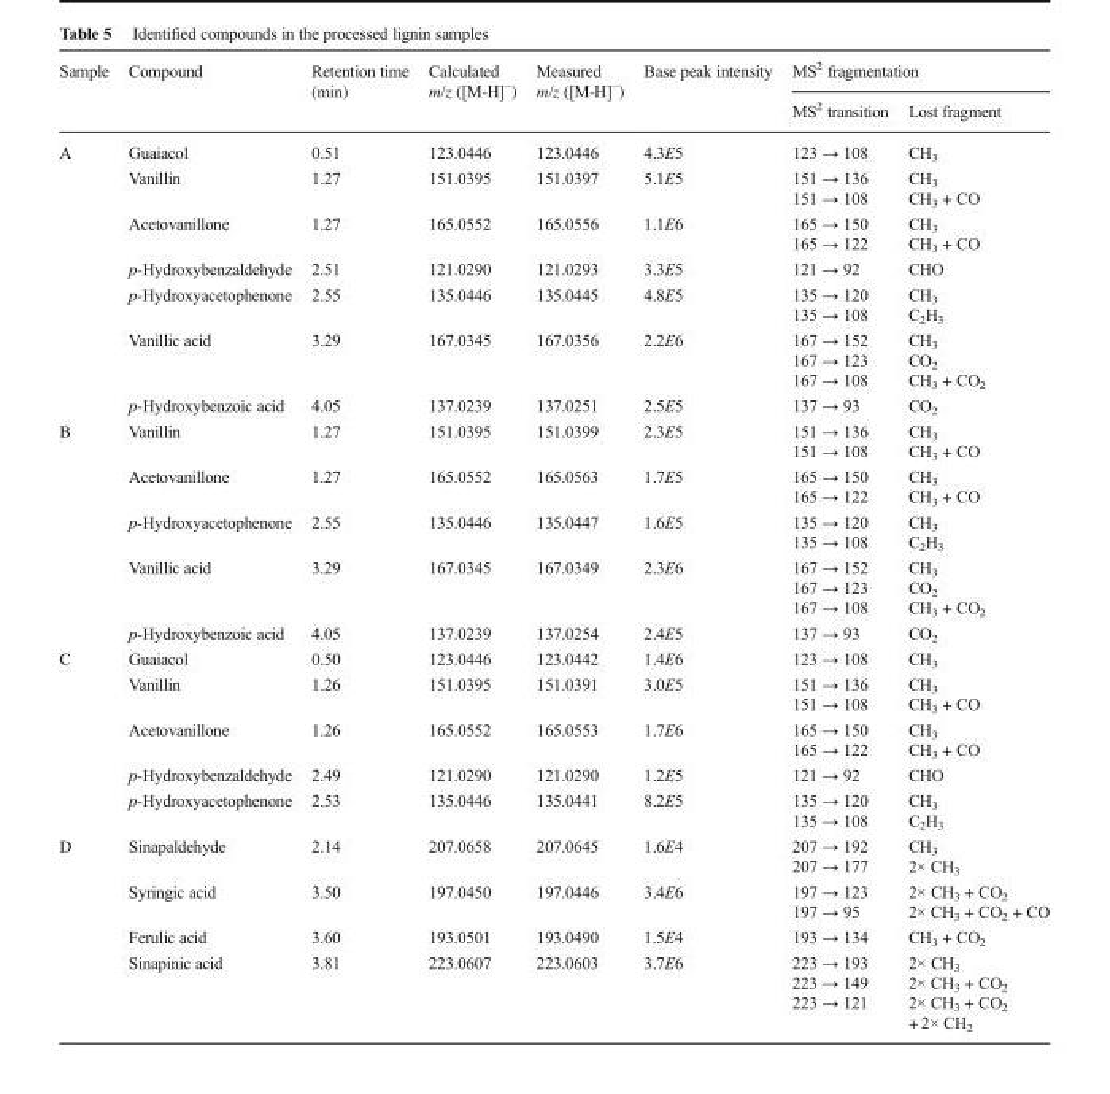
<table><thead><tr><td rowspan="2">Sample</td><td rowspan="2">Compound</td><td rowspan="2">Retention time (min)</td><td rowspan="2">Calculated m/z ([M-H]<sup>−</sup>)</td><td rowspan="2">Measured m/z ([M-H]<sup>−</sup>)</td><td rowspan="2">Base peak intensity</td><td colspan="2">MS<sup>2</sup> fragmentation</td></tr><tr><td>MS<sup>2</sup> transition</td><td>Lost fragment</td></tr></thead><tbody><tr><td rowspan="7">A</td><td>Guaiacol</td><td>0.51</td><td>123.0446</td><td>123.0446</td><td>4.3E5</td><td>123 → 108</td><td>CH<sub>3</sub></td></tr><tr><td>Vanillin</td><td>1.27</td><td>151.0395</td><td>151.0397</td><td>5.1E5</td><td>151 → 136 151 → 108</td><td>CH<sub>3</sub> CH<sub>3</sub> + CO</td></tr><tr><td>Acetovanillone</td><td>1.27</td><td>165.0552</td><td>165.0556</td><td>1.1E6</td><td>165 → 150 165 → 122</td><td>CH<sub>3</sub> CH<sub>3</sub> + CO</td></tr><tr><td>p-Hydroxybenzaldehyde</td><td>2.51</td><td>121.0290</td><td>121.0293</td><td>3.3E5</td><td>121 → 92</td><td>CHO</td></tr><tr><td>p-Hydroxyacetophenone</td><td>2.55</td><td>135.0446</td><td>135.0445</td><td>4.8E5</td><td>135 → 120 135 → 108</td><td>CH<sub>3</sub> C<sub>2</sub>H<sub>3</sub></td></tr><tr><td>Vanillic acid</td><td>3.29</td><td>167.0345</td><td>167.0356</td><td>2.2E6</td><td>167 → 152 167 → 123 167 → 108</td><td>CH<sub>3</sub> CO<sub>2</sub> CH<sub>3</sub> + CO<sub>2</sub></td></tr><tr><td>p-Hydroxybenzoic acid</td><td>4.05</td><td>137.0239</td><td>137.0251</td><td>2.5E5</td><td>137 → 93</td><td>CO<sub>2</sub></td></tr><tr><td rowspan="5">B</td><td>Vanillin</td><td>1.27</td><td>151.0395</td><td>151.0399</td><td>2.3E5</td><td>151 → 136 151 → 108</td><td>CH<sub>3</sub> CH<sub>3</sub> + CO</td></tr><tr><td>Acetovanillone</td><td>1.27</td><td>165.0552</td><td>165.0563</td><td>1.7E5</td><td>165 → 150 165 → 122</td><td>CH<sub>3</sub> CH<sub>3</sub> + CO</td></tr><tr><td>p-Hydroxyacetophenone</td><td>2.55</td><td>135.0446</td><td>135.0447</td><td>1.6E5</td><td>135 → 120 135 → 108</td><td>CH<sub>3</sub> C<sub>2</sub>H<sub>3</sub></td></tr><tr><td>Vanillic acid</td><td>3.29</td><td>167.0345</td><td>167.0349</td><td>2.3E6</td><td>167 → 152 167 → 123 167 → 108</td><td>CH<sub>3</sub> CO<sub>2</sub> CH<sub>3</sub> + CO<sub>2</sub></td></tr><tr><td>p-Hydroxybenzoic acid</td><td>4.05</td><td>137.0239</td><td>137.0254</td><td>2.4E5</td><td>137 → 93</td><td>CO<sub>2</sub></td></tr><tr><td rowspan="5">C</td><td>Guaiacol</td><td>0.50</td><td>123.0446</td><td>123.0442</td><td>1.4E6</td><td>123 → 108</td><td>CH<sub>3</sub></td></tr><tr><td>Vanillin</td><td>1.26</td><td>151.0395</td><td>151.0391</td><td>3.0E5</td><td>151 → 136 151 → 108</td><td>CH<sub>3</sub> CH<sub>3</sub> + CO</td></tr><tr><td>Acetovanillone</td><td>1.26</td><td>165.0552</td><td>165.0553</td><td>1.7E6</td><td>165 → 150 165 → 122</td><td>CH<sub>3</sub> CH<sub>3</sub> + CO</td></tr><tr><td>p-Hydroxybenzaldehyde</td><td>2.49</td><td>121.0290</td><td>121.0290</td><td>1.2E5</td><td>121 → 92</td><td>CHO</td></tr><tr><td>p-Hydroxyacetophenone</td><td>2.53</td><td>135.0446</td><td>135.0441</td><td>8.2E5</td><td>135 → 120 135 → 108</td><td>CH<sub>3</sub> C<sub>2</sub>H<sub>3</sub></td></tr><tr><td rowspan="4">D</td><td>Sinapaldehyde</td><td>2.14</td><td>207.0658</td><td>207.0645</td><td>1.6E4</td><td>207 → 192 207 → 177</td><td>CH<sub>3</sub> 2× CH<sub>3</sub></td></tr><tr><td>Syringic acid</td><td>3.50</td><td>197.0450</td><td>197.0446</td><td>3.4E6</td><td>197 → 123 197 → 95</td><td>2× CH<sub>3</sub> + CO<sub>2</sub> 2× CH<sub>3</sub> + CO<sub>2</sub> + CO</td></tr><tr><td>Ferulic acid</td><td>3.60</td><td>193.0501</td><td>193.0490</td><td>1.5E4</td><td>193 → 134</td><td>CH<sub>3</sub> + CO<sub>2</sub></td></tr><tr><td>Sinapinic acid</td><td>3.81</td><td>223.0607</td><td>223.0603</td><td>3.7E6</td><td>223 → 193 223 → 149 223 → 121</td><td>2× CH<sub>3</sub> 2× CH<sub>3</sub> + CO<sub>2</sub> 2× CH<sub>3</sub> + CO<sub>2</sub> + 2× CH<sub>2</sub></td></tr></tbody></table>